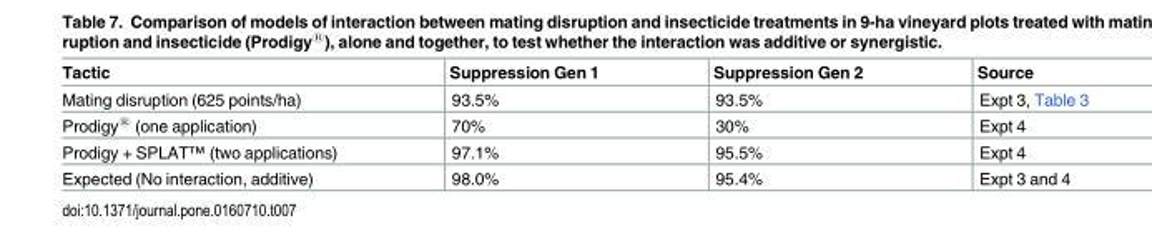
<table><thead><tr><td>Tactic</td><td>Suppression Gen 1</td><td>Suppression Gen 2</td><td>Source</td></tr></thead><tbody><tr><td>Mating disruption (625 points/ha)</td><td>93.5%</td><td>93.5%</td><td>Expt 3, Table 3</td></tr><tr><td>Prodigy<sup>®</sup> (one application)</td><td>70%</td><td>30%</td><td>Expt 4</td></tr><tr><td>Prodigy + SPLAT<sup>™</sup> (two applications)</td><td>97.1%</td><td>95.5%</td><td>Expt 4</td></tr><tr><td>Expected (No interaction, additive)</td><td>98.0%</td><td>95.4%</td><td>Expt 3 and 4</td></tr></tbody></table>